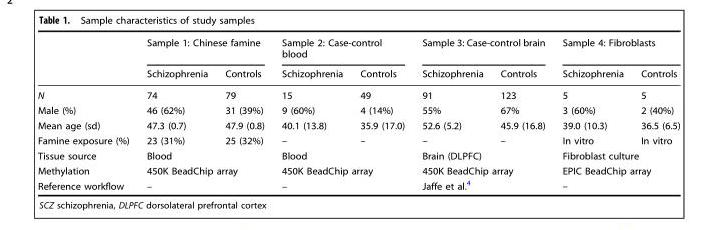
<table><thead><tr><td rowspan="2"></td><td colspan="2">Sample 1: Chinese famine</td><td colspan="2">Sample 2: Case-control blood</td><td colspan="2">Sample 3: Case-control brain</td><td colspan="2">Sample 4: Fibroblasts</td></tr><tr><td>Schizophrenia</td><td>Controls</td><td>Schizophrenia</td><td>Controls</td><td>Schizophrenia</td><td>Controls</td><td>Schizophrenia</td><td>Controls</td></tr></thead><tbody><tr><td>N</td><td>74</td><td>79</td><td>15</td><td>49</td><td>91</td><td>123</td><td>5</td><td>5</td></tr><tr><td>Male (%)</td><td>46 (62%)</td><td>31 (39%)</td><td>9 (60%)</td><td>4 (14%)</td><td>55%</td><td>67%</td><td>3 (60%)</td><td>2 (40%)</td></tr><tr><td>Mean age (sd)</td><td>47.3 (0.7)</td><td>47.9 (0.8)</td><td>40.1 (13.8)</td><td>35.9 (17.0)</td><td>52.6 (5.2)</td><td>45.9 (16.8)</td><td>39.0 (10.3)</td><td>36.5 (6.5)</td></tr><tr><td>Famine exposure (%)</td><td>23 (31%)</td><td>25 (32%)</td><td>–</td><td>–</td><td>–</td><td>–</td><td>In vitro</td><td>In vitro</td></tr><tr><td>Tissue source</td><td colspan="2">Blood</td><td colspan="2">Blood</td><td colspan="2">Brain (DLPFC)</td><td colspan="2">Fibroblast culture</td></tr><tr><td>Methylation</td><td colspan="2">450K BeadChip array</td><td colspan="2">450K BeadChip array</td><td colspan="2">450K BeadChip array</td><td colspan="2">EPIC BeadChip array</td></tr><tr><td>Reference workflow</td><td colspan="2">–</td><td colspan="2">–</td><td colspan="2">Jaffe et al.<sup>4</sup></td><td colspan="2">–</td></tr></tbody></table>